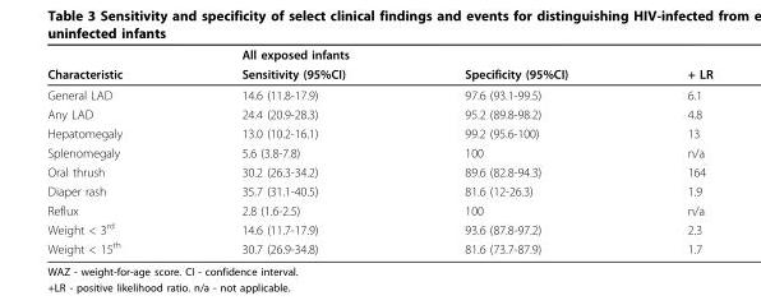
<table><thead><tr><td rowspan="2">Characteristic</td><td colspan="3">All exposed infants</td></tr><tr><td>Sensitivity (95%CI)</td><td>Specificity (95%CI)</td><td>+ LR</td></tr></thead><tbody><tr><td>General LAD</td><td>14.6 (11.8-17.9)</td><td>97.6 (93.1-99.5)</td><td>6.1</td></tr><tr><td>Any LAD</td><td>24.4 (20.9-28.3)</td><td>95.2 (89.8-98.2)</td><td>4.8</td></tr><tr><td>Hepatomegaly</td><td>13.0 (10.2-16.1)</td><td>99.2 (95.6-100)</td><td>13</td></tr><tr><td>Splenomegaly</td><td>5.6 (3.8-7.8)</td><td>100</td><td>n/a</td></tr><tr><td>Oral thrush</td><td>30.2 (26.3-34.2)</td><td>89.6 (82.8-94.3)</td><td>164</td></tr><tr><td>Diaper rash</td><td>35.7 (31.1-40.5)</td><td>81.6 (12-26.3)</td><td>1.9</td></tr><tr><td>Reflux</td><td>2.8 (1.6-2.5)</td><td>100</td><td>n/a</td></tr><tr><td>Weight &lt; 3<sup>rd</sup></td><td>14.6 (11.7-17.9)</td><td>93.6 (87.8-97.2)</td><td>2.3</td></tr><tr><td>Weight &lt; 15<sup>th</sup></td><td>30.7 (26.9-34.8)</td><td>81.6 (73.7-87.9)</td><td>1.7</td></tr></tbody></table>